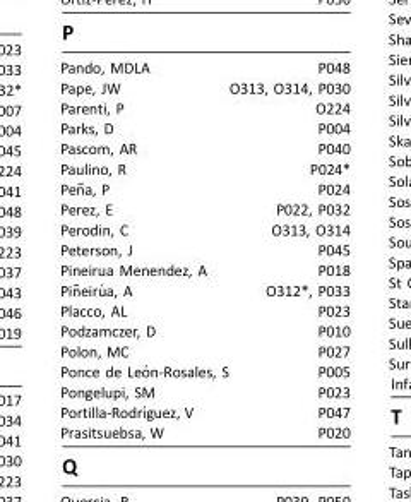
<table><tbody><tr><td>Pando, MDLA</td><td>P048</td></tr><tr><td>Pape, JW</td><td>O313, O314, P030</td></tr><tr><td>Parenti, P</td><td>O224</td></tr><tr><td>Parks, D</td><td>P004</td></tr><tr><td>Pascom, AR</td><td>P040</td></tr><tr><td>Paulino, R</td><td>P024*</td></tr><tr><td>Pen˜a, P</td><td>P024</td></tr><tr><td>Perez, E</td><td>P022, P032</td></tr><tr><td>Perodin, C</td><td>O313, O314</td></tr><tr><td>Peterson, J</td><td>P045</td></tr><tr><td>Pineirua Menendez, A</td><td>P018</td></tr><tr><td>Pin˜eiru´a, A</td><td>O312*, P033</td></tr><tr><td>Placco, AL</td><td>P023</td></tr><tr><td>Podzamczer, D</td><td>P010</td></tr><tr><td>Polon, MC</td><td>P027</td></tr><tr><td>Ponce de Leo´n-Rosales, S</td><td>P005</td></tr><tr><td>Pongelupi, SM</td><td>P023</td></tr><tr><td>Portilla-Rodrı´guez, V</td><td>P047</td></tr><tr><td>Prasitsuebsa, W</td><td>P020</td></tr></tbody></table>